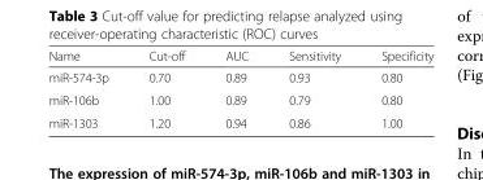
<table><thead><tr><td>Name</td><td>Cut-off</td><td>AUC</td><td>Sensitivity</td><td>Specificity</td></tr></thead><tbody><tr><td>miR-574-3p</td><td>0.70</td><td>0.89</td><td>0.93</td><td>0.80</td></tr><tr><td>miR-106b</td><td>1.00</td><td>0.89</td><td>0.79</td><td>0.80</td></tr><tr><td>miR-1303</td><td>1.20</td><td>0.94</td><td>0.86</td><td>1.00</td></tr></tbody></table>